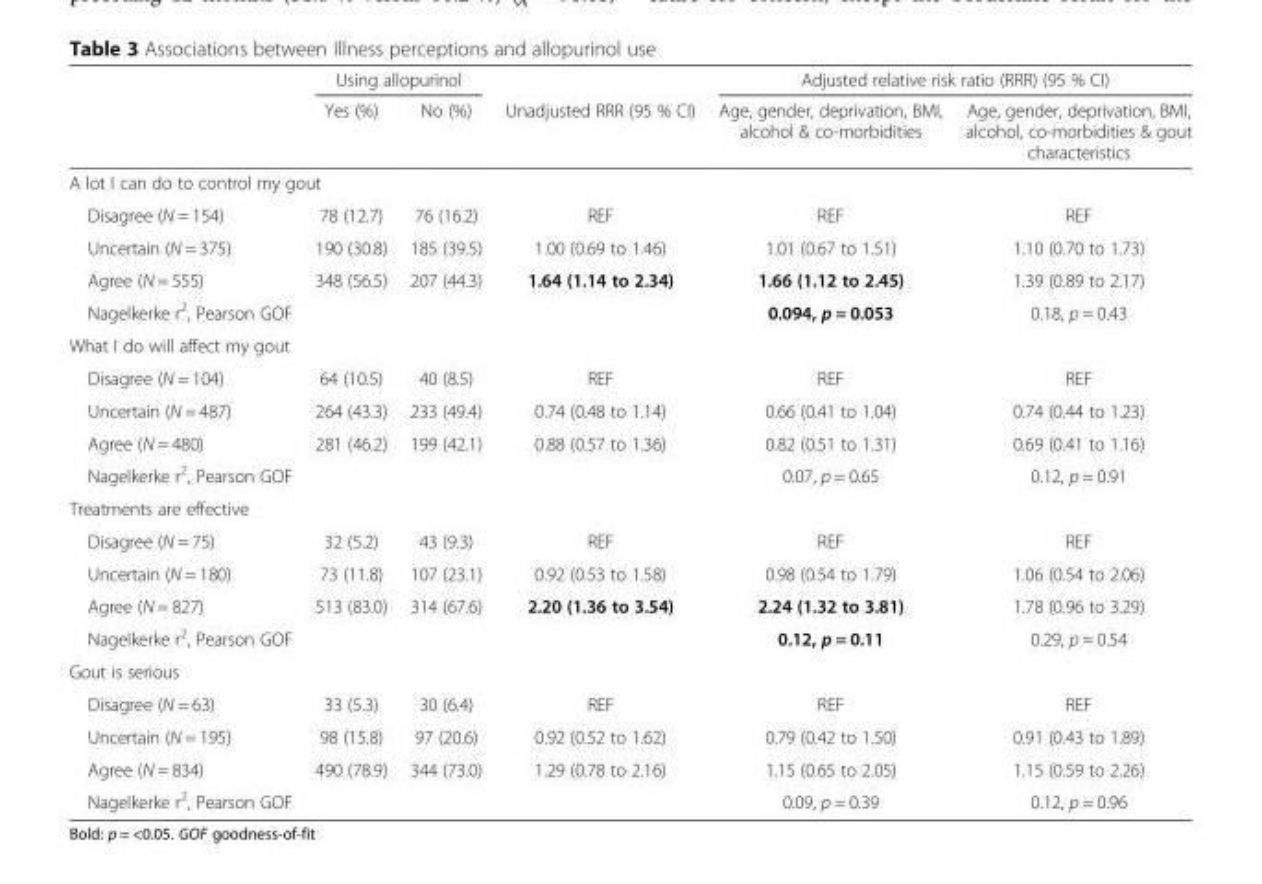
<table><thead><tr><td rowspan="2"></td><td colspan="2">Using allopurinol</td><td rowspan="2">Unadjusted RRR (95 % CI)</td><td colspan="2">Adjusted relative risk ratio (RRR) (95 % CI)</td></tr><tr><td>Yes (%)</td><td>No (%)</td><td>Age, gender, deprivation, BMI, alcohol &amp; co-morbidities</td><td>Age, gender, deprivation, BMI, alcohol, co-morbidities &amp; gout characteristics</td></tr></thead><tbody><tr><td colspan="6">A lot I can do to control my gout</td></tr><tr><td>Disagree (N = 154)</td><td>78 (12.7)</td><td>76 (16.2)</td><td>REF</td><td>REF</td><td>REF</td></tr><tr><td>Uncertain (N = 375)</td><td>190 (30.8)</td><td>185 (39.5)</td><td>1.00 (0.69 to 1.46)</td><td>1.01 (0.67 to 1.51)</td><td>1.10 (0.70 to 1.73)</td></tr><tr><td>Agree (N = 555)</td><td>348 (56.5)</td><td>207 (44.3)</td><td>1.64 (1.14 to 2.34)</td><td>1.66 (1.12 to 2.45)</td><td>1.39 (0.89 to 2.17)</td></tr><tr><td>Nagelkerke r<sup>2</sup>, Pearson GOF</td><td></td><td></td><td></td><td>0.094, p = 0.053</td><td>0.18, p = 0.43</td></tr><tr><td colspan="6">What I do will affect my gout</td></tr><tr><td>Disagree (N = 104)</td><td>64 (10.5)</td><td>40 (8.5)</td><td>REF</td><td>REF</td><td>REF</td></tr><tr><td>Uncertain (N = 487)</td><td>264 (43.3)</td><td>233 (49.4)</td><td>0.74 (0.48 to 1.14)</td><td>0.66 (0.41 to 1.04)</td><td>0.74 (0.44 to 1.23)</td></tr><tr><td>Agree (N = 480)</td><td>281 (46.2)</td><td>199 (42.1)</td><td>0.88 (0.57 to 1.36)</td><td>0.82 (0.51 to 1.31)</td><td>0.69 (0.41 to 1.16)</td></tr><tr><td>Nagelkerke r<sup>2</sup>, Pearson GOF</td><td></td><td></td><td></td><td>0.07, p = 0.65</td><td>0.12, p = 0.91</td></tr><tr><td colspan="6">Treatments are effective</td></tr><tr><td>Disagree (N = 75)</td><td>32 (5.2)</td><td>43 (9.3)</td><td>REF</td><td>REF</td><td>REF</td></tr><tr><td>Uncertain (N = 180)</td><td>73 (11.8)</td><td>107 (23.1)</td><td>0.92 (0.53 to 1.58)</td><td>0.98 (0.54 to 1.79)</td><td>1.06 (0.54 to 2.06)</td></tr><tr><td>Agree (N = 827)</td><td>513 (83.0)</td><td>314 (67.6)</td><td>2.20 (1.36 to 3.54)</td><td>2.24 (1.32 to 3.81)</td><td>1.78 (0.96 to 3.29)</td></tr><tr><td>Nagelkerke r<sup>2</sup>, Pearson GOF</td><td></td><td></td><td></td><td>0.12, p = 0.11</td><td>0.29, p = 0.54</td></tr><tr><td colspan="6">Gout is serious</td></tr><tr><td>Disagree (N = 63)</td><td>33 (5.3)</td><td>30 (6.4)</td><td>REF</td><td>REF</td><td>REF</td></tr><tr><td>Uncertain (N = 195)</td><td>98 (15.8)</td><td>97 (20.6)</td><td>0.92 (0.52 to 1.62)</td><td>0.79 (0.42 to 1.50)</td><td>0.91 (0.43 to 1.89)</td></tr><tr><td>Agree (N = 834)</td><td>490 (78.9)</td><td>344 (73.0)</td><td>1.29 (0.78 to 2.16)</td><td>1.15 (0.65 to 2.05)</td><td>1.15 (0.59 to 2.26)</td></tr><tr><td>Nagelkerke r<sup>2</sup>, Pearson GOF</td><td></td><td></td><td></td><td>0.09, p = 0.39</td><td>0.12, p = 0.96</td></tr></tbody></table>